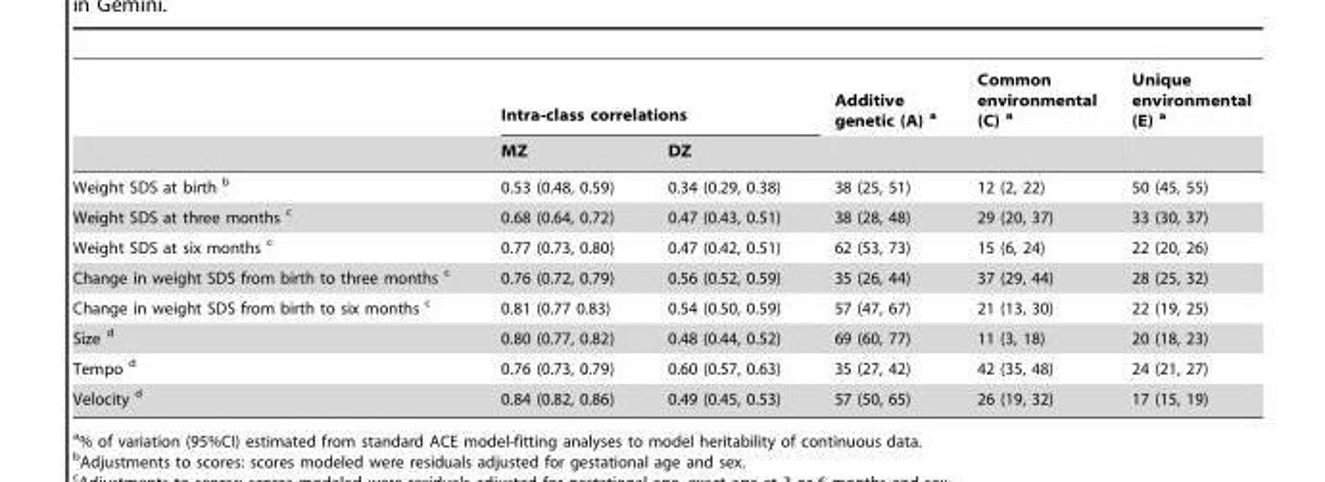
<table><thead><tr><td rowspan="2"></td><td colspan="2">Intra-class correlations</td><td rowspan="2">Additive genetic (A) a</td><td rowspan="2">Common environmental (C) a</td><td rowspan="2">Unique environmental (E) a</td></tr><tr><td>MZ</td><td>DZ</td></tr></thead><tbody><tr><td>Weight SDS at birth b</td><td>0.53 (0.48, 0.59)</td><td>0.34 (0.29, 0.38)</td><td>38 (25, 51)</td><td>12 (2, 22)</td><td>50 (45, 55)</td></tr><tr><td>Weight SDS at three months c</td><td>0.68 (0.64, 0.72)</td><td>0.47 (0.43, 0.51)</td><td>38 (28, 48)</td><td>29 (20, 37)</td><td>33 (30, 37)</td></tr><tr><td>Weight SDS at six months c</td><td>0.77 (0.73, 0.80)</td><td>0.47 (0.42, 0.51)</td><td>62 (53, 73)</td><td>15 (6, 24)</td><td>22 (20, 26)</td></tr><tr><td>Change in weight SDS from birth to three months c</td><td>0.76 (0.72, 0.79)</td><td>0.56 (0.52, 0.59)</td><td>35 (26, 44)</td><td>37 (29, 44)</td><td>28 (25, 32)</td></tr><tr><td>Change in weight SDS from birth to six months c</td><td>0.81 (0.77 0.83)</td><td>0.54 (0.50, 0.59)</td><td>57 (47, 67)</td><td>21 (13, 30)</td><td>22 (19, 25)</td></tr><tr><td>Size d</td><td>0.80 (0.77, 0.82)</td><td>0.48 (0.44, 0.52)</td><td>69 (60, 77)</td><td>11 (3, 18)</td><td>20 (18, 23)</td></tr><tr><td>Tempo d</td><td>0.76 (0.73, 0.79)</td><td>0.60 (0.57, 0.63)</td><td>35 (27, 42)</td><td>42 (35, 48)</td><td>24 (21, 27)</td></tr><tr><td>Velocity d</td><td>0.84 (0.82, 0.86)</td><td>0.49 (0.45, 0.53)</td><td>57 (50, 65)</td><td>26 (19, 32)</td><td>17 (15, 19)</td></tr></tbody></table>